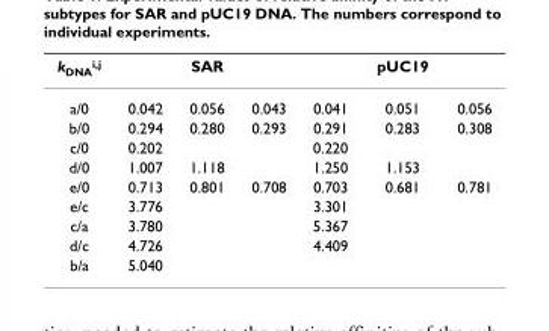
<table><thead><tr><td>kDNAi,j</td><td></td><td>SAR</td><td></td><td></td><td>pUC19</td><td></td></tr></thead><tbody><tr><td>a/0</td><td>0.042</td><td>0.056</td><td>0.043</td><td>0.041</td><td>0.051</td><td>0.056</td></tr><tr><td>b/0</td><td>0.294</td><td>0.280</td><td>0.293</td><td>0.291</td><td>0.283</td><td>0.308</td></tr><tr><td>c/0</td><td>0.202</td><td></td><td></td><td>0.220</td><td></td><td></td></tr><tr><td>d/0</td><td>1.007</td><td>1.118</td><td></td><td>1.250</td><td>1.153</td><td></td></tr><tr><td>e/0</td><td>0.713</td><td>0.801</td><td>0.708</td><td>0.703</td><td>0.681</td><td>0.781</td></tr><tr><td>e/c</td><td>3.776</td><td></td><td></td><td>3.301</td><td></td><td></td></tr><tr><td>c/a</td><td>3.780</td><td></td><td></td><td>5.367</td><td></td><td></td></tr><tr><td>d/c</td><td>4.726</td><td></td><td></td><td>4.409</td><td></td><td></td></tr><tr><td>b/a</td><td>5.040</td><td></td><td></td><td></td><td></td><td></td></tr></tbody></table>